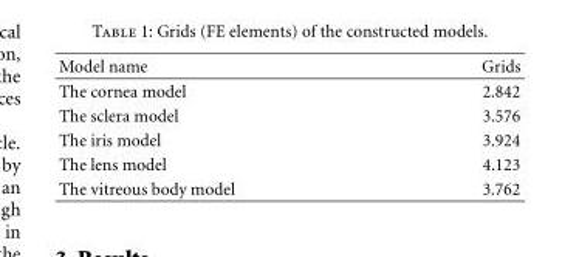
<table><thead><tr><td>Model name</td><td>Grids</td></tr></thead><tbody><tr><td>The cornea model</td><td>2.842</td></tr><tr><td>The sclera model</td><td>3.576</td></tr><tr><td>The iris model</td><td>3.924</td></tr><tr><td>The lens model</td><td>4.123</td></tr><tr><td>The vitreous body model</td><td>3.762</td></tr></tbody></table>